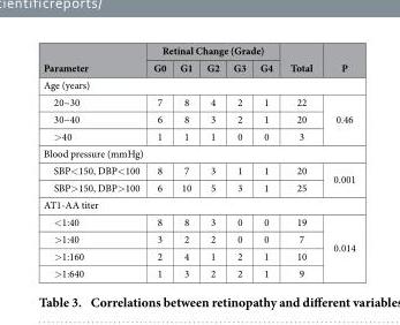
<table><thead><tr><td rowspan="2">Parameter</td><td colspan="5">Retinal Change (Grade)</td><td rowspan="2">Total</td><td rowspan="2">P</td></tr><tr><td>G0</td><td>G1</td><td>G2</td><td>G3</td><td>G4</td></tr></thead><tbody><tr><td colspan="8">Age (years)</td></tr><tr><td>20~30</td><td>7</td><td>8</td><td>4</td><td>2</td><td>1</td><td>22</td><td rowspan="3">0.46</td></tr><tr><td>30~40</td><td>6</td><td>8</td><td>3</td><td>2</td><td>1</td><td>20</td></tr><tr><td>&gt; 40</td><td>1</td><td>1</td><td>1</td><td>0</td><td>0</td><td>3</td></tr><tr><td colspan="8">Blood pressure (mmHg)</td></tr><tr><td>SBP&lt; 150, DBP&lt; 100</td><td>8</td><td>7</td><td>3</td><td>1</td><td>1</td><td>20</td><td rowspan="2">0.001</td></tr><tr><td>SBP&gt; 150, DBP&gt; 100</td><td>6</td><td>10</td><td>5</td><td>3</td><td>1</td><td>25</td></tr><tr><td colspan="8">AT1-AA titer</td></tr><tr><td>&lt; 1:40</td><td>8</td><td>8</td><td>3</td><td>0</td><td>0</td><td>19</td><td rowspan="4">0.014</td></tr><tr><td>&gt; 1:40</td><td>3</td><td>2</td><td>2</td><td>0</td><td>0</td><td>7</td></tr><tr><td>&gt; 1:160</td><td>2</td><td>4</td><td>1</td><td>2</td><td>1</td><td>10</td></tr><tr><td>&gt; 1:640</td><td>1</td><td>3</td><td>2</td><td>2</td><td>1</td><td>9</td></tr></tbody></table>